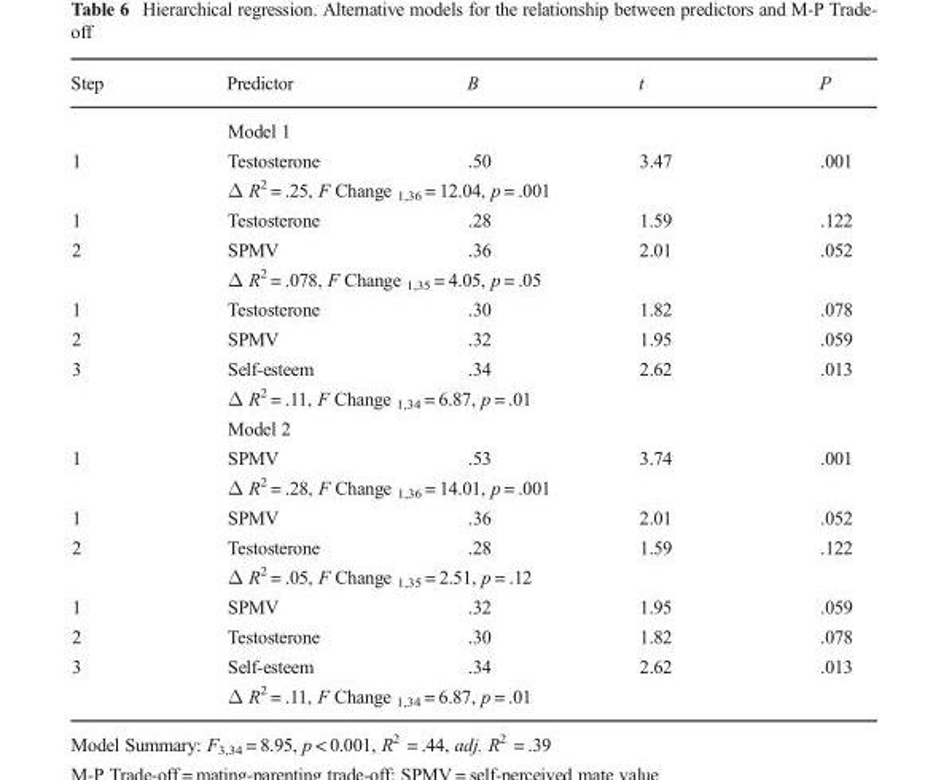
<table><thead><tr><td>Step</td><td>Predictor</td><td>Β</td><td>t</td><td>P</td></tr></thead><tbody><tr><td></td><td colspan="4">Model 1</td></tr><tr><td rowspan="2">1</td><td>Testosterone</td><td>.50</td><td>3.47</td><td>.001</td></tr><tr><td colspan="4">Δ R<sup>2</sup> = .25, F Change <sub>1,36</sub> = 12.04, p = .001</td></tr><tr><td>1</td><td>Testosterone</td><td>.28</td><td>1.59</td><td>.122</td></tr><tr><td rowspan="2">2</td><td>SPMV</td><td>.36</td><td>2.01</td><td>.052</td></tr><tr><td colspan="4">Δ R<sup>2</sup> = .078, F Change <sub>1,35</sub> = 4.05, p = .05</td></tr><tr><td>1</td><td>Testosterone</td><td>.30</td><td>1.82</td><td>.078</td></tr><tr><td>2</td><td>SPMV</td><td>.32</td><td>1.95</td><td>.059</td></tr><tr><td rowspan="3">3</td><td>Self-esteem</td><td>.34</td><td>2.62</td><td>.013</td></tr><tr><td colspan="4">Δ R<sup>2</sup> = .11, F Change <sub>1,34</sub> = 6.87, p = .01</td></tr><tr><td colspan="4">Model 2</td></tr><tr><td rowspan="2">1</td><td>SPMV</td><td>.53</td><td>3.74</td><td>.001</td></tr><tr><td colspan="4">Δ R<sup>2</sup> = .28, F Change <sub>1,36</sub> = 14.01, p = .001</td></tr><tr><td>1</td><td>SPMV</td><td>.36</td><td>2.01</td><td>.052</td></tr><tr><td rowspan="2">2</td><td>Testosterone</td><td>.28</td><td>1.59</td><td>.122</td></tr><tr><td colspan="4">Δ R<sup>2</sup> = .05, F Change <sub>1,35</sub> = 2.51, p = .12</td></tr><tr><td>1</td><td>SPMV</td><td>.32</td><td>1.95</td><td>.059</td></tr><tr><td>2</td><td>Testosterone</td><td>.30</td><td>1.82</td><td>.078</td></tr><tr><td rowspan="2">3</td><td>Self-esteem</td><td>.34</td><td>2.62</td><td>.013</td></tr><tr><td colspan="4">Δ R<sup>2</sup> = .11, F Change <sub>1,34</sub> = 6.87, p = .01</td></tr></tbody></table>